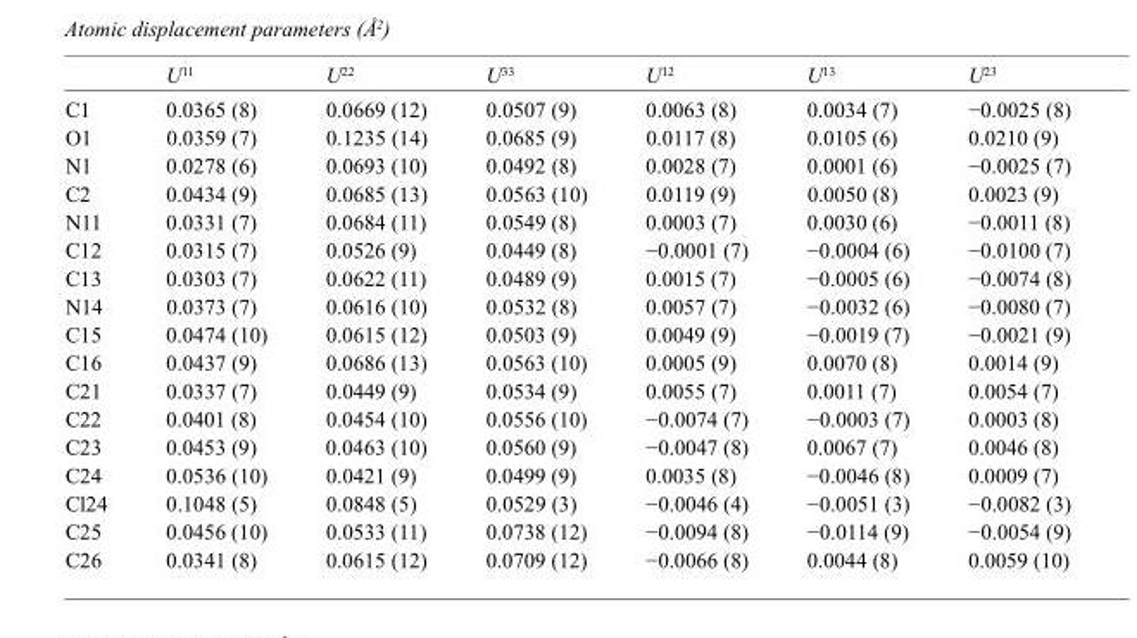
<table><thead><tr><td></td><td>U<sup>11</sup></td><td>U<sup>22</sup></td><td>U<sup>33</sup></td><td>U<sup>12</sup></td><td>U<sup>13</sup></td><td>U<sup>23</sup></td></tr></thead><tbody><tr><td>C1</td><td>0.0365 (8)</td><td>0.0669 (12)</td><td>0.0507 (9)</td><td>0.0063 (8)</td><td>0.0034 (7)</td><td>−0.0025 (8)</td></tr><tr><td>O1</td><td>0.0359 (7)</td><td>0.1235 (14)</td><td>0.0685 (9)</td><td>0.0117 (8)</td><td>0.0105 (6)</td><td>0.0210 (9)</td></tr><tr><td>N1</td><td>0.0278 (6)</td><td>0.0693 (10)</td><td>0.0492 (8)</td><td>0.0028 (7)</td><td>0.0001 (6)</td><td>−0.0025 (7)</td></tr><tr><td>C2</td><td>0.0434 (9)</td><td>0.0685 (13)</td><td>0.0563 (10)</td><td>0.0119 (9)</td><td>0.0050 (8)</td><td>0.0023 (9)</td></tr><tr><td>N11</td><td>0.0331 (7)</td><td>0.0684 (11)</td><td>0.0549 (8)</td><td>0.0003 (7)</td><td>0.0030 (6)</td><td>−0.0011 (8)</td></tr><tr><td>C12</td><td>0.0315 (7)</td><td>0.0526 (9)</td><td>0.0449 (8)</td><td>−0.0001 (7)</td><td>−0.0004 (6)</td><td>−0.0100 (7)</td></tr><tr><td>C13</td><td>0.0303 (7)</td><td>0.0622 (11)</td><td>0.0489 (9)</td><td>0.0015 (7)</td><td>−0.0005 (6)</td><td>−0.0074 (8)</td></tr><tr><td>N14</td><td>0.0373 (7)</td><td>0.0616 (10)</td><td>0.0532 (8)</td><td>0.0057 (7)</td><td>−0.0032 (6)</td><td>−0.0080 (7)</td></tr><tr><td>C15</td><td>0.0474 (10)</td><td>0.0615 (12)</td><td>0.0503 (9)</td><td>0.0049 (9)</td><td>−0.0019 (7)</td><td>−0.0021 (9)</td></tr><tr><td>C16</td><td>0.0437 (9)</td><td>0.0686 (13)</td><td>0.0563 (10)</td><td>0.0005 (9)</td><td>0.0070 (8)</td><td>0.0014 (9)</td></tr><tr><td>C21</td><td>0.0337 (7)</td><td>0.0449 (9)</td><td>0.0534 (9)</td><td>0.0055 (7)</td><td>0.0011 (7)</td><td>0.0054 (7)</td></tr><tr><td>C22</td><td>0.0401 (8)</td><td>0.0454 (10)</td><td>0.0556 (10)</td><td>−0.0074 (7)</td><td>−0.0003 (7)</td><td>0.0003 (8)</td></tr><tr><td>C23</td><td>0.0453 (9)</td><td>0.0463 (10)</td><td>0.0560 (9)</td><td>−0.0047 (8)</td><td>0.0067 (7)</td><td>0.0046 (8)</td></tr><tr><td>C24</td><td>0.0536 (10)</td><td>0.0421 (9)</td><td>0.0499 (9)</td><td>0.0035 (8)</td><td>−0.0046 (8)</td><td>0.0009 (7)</td></tr><tr><td>Cl24</td><td>0.1048 (5)</td><td>0.0848 (5)</td><td>0.0529 (3)</td><td>−0.0046 (4)</td><td>−0.0051 (3)</td><td>−0.0082 (3)</td></tr><tr><td>C25</td><td>0.0456 (10)</td><td>0.0533 (11)</td><td>0.0738 (12)</td><td>−0.0094 (8)</td><td>−0.0114 (9)</td><td>−0.0054 (9)</td></tr><tr><td>C26</td><td>0.0341 (8)</td><td>0.0615 (12)</td><td>0.0709 (12)</td><td>−0.0066 (8)</td><td>0.0044 (8)</td><td>0.0059 (10)</td></tr></tbody></table>